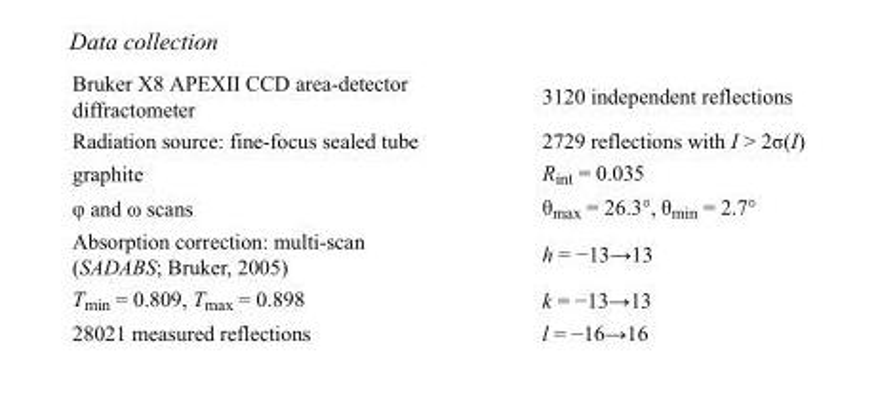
<table><tbody><tr><td>Bruker X8 APEXII CCD area-detector diffractometer</td><td>3120 independent reflections</td></tr><tr><td>Radiation source: fine-focus sealed tube</td><td>2729 reflections with I &gt; 2σ(I)</td></tr><tr><td>graphite</td><td>R<sub>int</sub> = 0.035</td></tr><tr><td>φ and ω scans</td><td>θ<sub>max</sub> = 26.3°, θ<sub>min</sub> = 2.7°</td></tr><tr><td>Absorption correction: multi-scan (SADABS; Bruker, 2005)</td><td>h = −13→13</td></tr><tr><td>T<sub>min</sub> = 0.809, T<sub>max</sub> = 0.898</td><td>k = −13→13</td></tr><tr><td>28021 measured reflections</td><td>l = −16→16</td></tr></tbody></table>